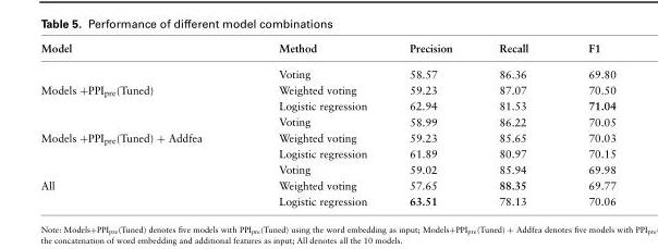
<table><thead><tr><td>Model</td><td>Method</td><td>Precision</td><td>Recall</td><td>F1</td></tr></thead><tbody><tr><td rowspan="3">Models +PPI<sub>pre</sub>(Tuned)</td><td>Voting</td><td>58.57</td><td>86.36</td><td>69.80</td></tr><tr><td>Weighted voting</td><td>59.23</td><td>87.07</td><td>70.50</td></tr><tr><td>Logistic regression</td><td>62.94</td><td>81.53</td><td>71.04</td></tr><tr><td rowspan="3">Models +PPI<sub>pre</sub>(Tuned) + Addfea</td><td>Voting</td><td>58.99</td><td>86.22</td><td>70.05</td></tr><tr><td>Weighted voting</td><td>59.23</td><td>85.65</td><td>70.03</td></tr><tr><td>Logistic regression</td><td>61.89</td><td>80.97</td><td>70.15</td></tr><tr><td rowspan="3">All</td><td>Voting</td><td>59.02</td><td>85.94</td><td>69.98</td></tr><tr><td>Weighted voting</td><td>57.65</td><td>88.35</td><td>69.77</td></tr><tr><td>Logistic regression</td><td>63.51</td><td>78.13</td><td>70.06</td></tr></tbody></table>